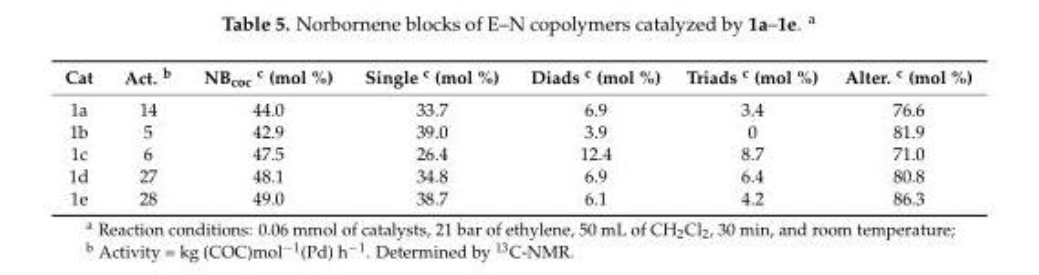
<table><thead><tr><td>Cat</td><td>Act. b</td><td>NBcoc c (mol %)</td><td>Single c (mol %)</td><td>Diads c (mol %)</td><td>Triads c (mol %)</td><td>Alter. c (mol %)</td></tr></thead><tbody><tr><td>1a</td><td>14</td><td>44.0</td><td>33.7</td><td>6.9</td><td>3.4</td><td>76.6</td></tr><tr><td>1b</td><td>5</td><td>42.9</td><td>39.0</td><td>3.9</td><td>0</td><td>81.9</td></tr><tr><td>1c</td><td>6</td><td>47.5</td><td>26.4</td><td>12.4</td><td>8.7</td><td>71.0</td></tr><tr><td>1d</td><td>27</td><td>48.1</td><td>34.8</td><td>6.9</td><td>6.4</td><td>80.8</td></tr><tr><td>1e</td><td>28</td><td>49.0</td><td>38.7</td><td>6.1</td><td>4.2</td><td>86.3</td></tr></tbody></table>